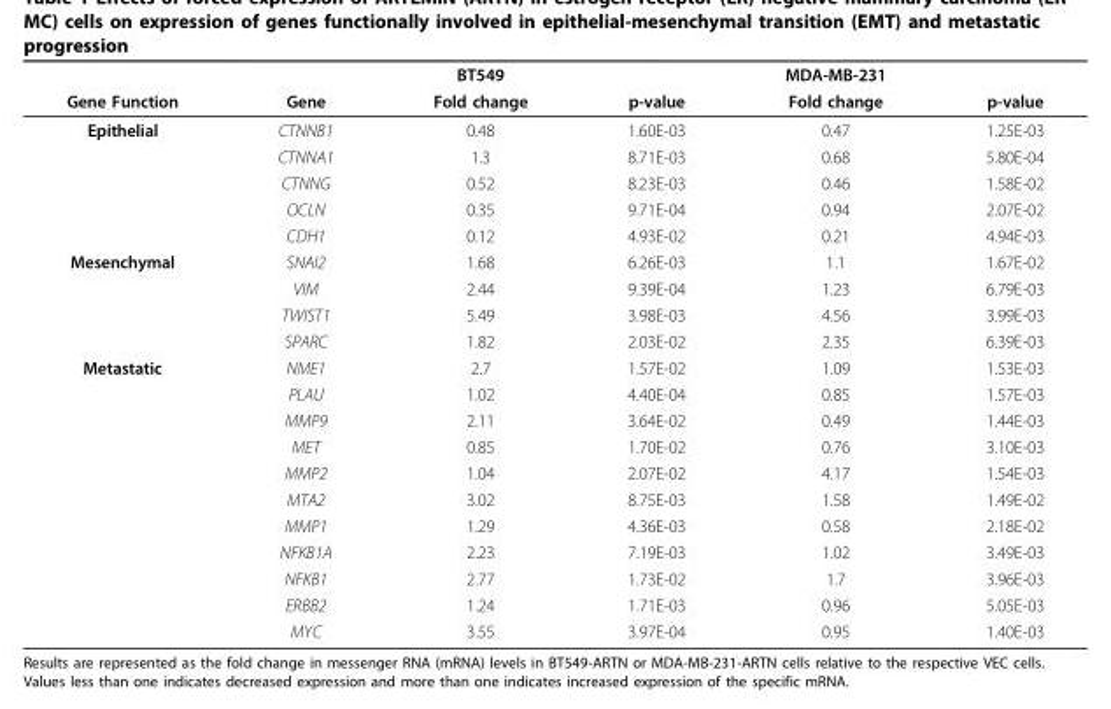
<table><thead><tr><td rowspan="2">Gene Function</td><td rowspan="2">Gene</td><td rowspan="2">BT549 Fold change</td><td rowspan="2">p-value</td><td rowspan="2">MDA-MB-231 Fold change</td><td rowspan="2">p-value</td></tr><tr></tr></thead><tbody><tr><td rowspan="5">Epithelial</td><td>CTNNB1</td><td>0.48</td><td>1.60E-03</td><td>0.47</td><td>1.25E-03</td></tr><tr><td>CTNNA1</td><td>1.3</td><td>8.71E-03</td><td>0.68</td><td>5.80E-04</td></tr><tr><td>CTNNG</td><td>0.52</td><td>8.23E-03</td><td>0.46</td><td>1.58E-02</td></tr><tr><td>OCLN</td><td>0.35</td><td>9.71E-04</td><td>0.94</td><td>2.07E-02</td></tr><tr><td>CDH1</td><td>0.12</td><td>4.93E-02</td><td>0.21</td><td>4.94E-03</td></tr><tr><td rowspan="4">Mesenchymal</td><td>SNAI2</td><td>1.68</td><td>6.26E-03</td><td>1.1</td><td>1.67E-02</td></tr><tr><td>VIM</td><td>2.44</td><td>9.39E-04</td><td>1.23</td><td>6.79E-03</td></tr><tr><td>TWIST1</td><td>5.49</td><td>3.98E-03</td><td>4.56</td><td>3.99E-03</td></tr><tr><td>SPARC</td><td>1.82</td><td>2.03E-02</td><td>2.35</td><td>6.39E-03</td></tr><tr><td rowspan="11">Metastatic</td><td>NME1</td><td>2.7</td><td>1.57E-02</td><td>1.09</td><td>1.53E-03</td></tr><tr><td>PLAU</td><td>1.02</td><td>4.40E-04</td><td>0.85</td><td>1.57E-03</td></tr><tr><td>MMP9</td><td>2.11</td><td>3.64E-02</td><td>0.49</td><td>1.44E-03</td></tr><tr><td>MET</td><td>0.85</td><td>1.70E-02</td><td>0.76</td><td>3.10E-03</td></tr><tr><td>MMP2</td><td>1.04</td><td>2.07E-02</td><td>4.17</td><td>1.54E-03</td></tr><tr><td>MTA2</td><td>3.02</td><td>8.75E-03</td><td>1.58</td><td>1.49E-02</td></tr><tr><td>MMP1</td><td>1.29</td><td>4.36E-03</td><td>0.58</td><td>2.18E-02</td></tr><tr><td>NFKB1A</td><td>2.23</td><td>7.19E-03</td><td>1.02</td><td>3.49E-03</td></tr><tr><td>NFKB1</td><td>2.77</td><td>1.73E-02</td><td>1.7</td><td>3.96E-03</td></tr><tr><td>ERBB2</td><td>1.24</td><td>1.71E-03</td><td>0.96</td><td>5.05E-03</td></tr><tr><td>MYC</td><td>3.55</td><td>3.97E-04</td><td>0.95</td><td>1.40E-03</td></tr></tbody></table>